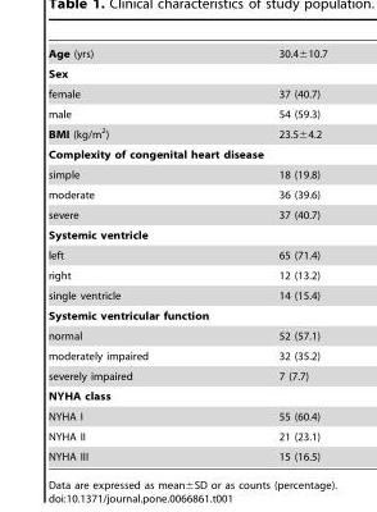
<table><tbody><tr><td>Age (yrs)</td><td>30.4±10.7</td></tr><tr><td colspan="2">Sex</td></tr><tr><td>female</td><td>37 (40.7)</td></tr><tr><td>male</td><td>54 (59.3)</td></tr><tr><td>BMI (kg/m<sup>2</sup>)</td><td>23.5±4.2</td></tr><tr><td colspan="2">Complexity of congenital heart disease</td></tr><tr><td>simple</td><td>18 (19.8)</td></tr><tr><td>moderate</td><td>36 (39.6)</td></tr><tr><td>severe</td><td>37 (40.7)</td></tr><tr><td colspan="2">Systemic ventricle</td></tr><tr><td>left</td><td>65 (71.4)</td></tr><tr><td>right</td><td>12 (13.2)</td></tr><tr><td>single ventricle</td><td>14 (15.4)</td></tr><tr><td colspan="2">Systemic ventricular function</td></tr><tr><td>normal</td><td>52 (57.1)</td></tr><tr><td>moderately impaired</td><td>32 (35.2)</td></tr><tr><td>severely impaired</td><td>7 (7.7)</td></tr><tr><td colspan="2">NYHA class</td></tr><tr><td>NYHA I</td><td>55 (60.4)</td></tr><tr><td>NYHA II</td><td>21 (23.1)</td></tr><tr><td>NYHA III</td><td>15 (16.5)</td></tr></tbody></table>